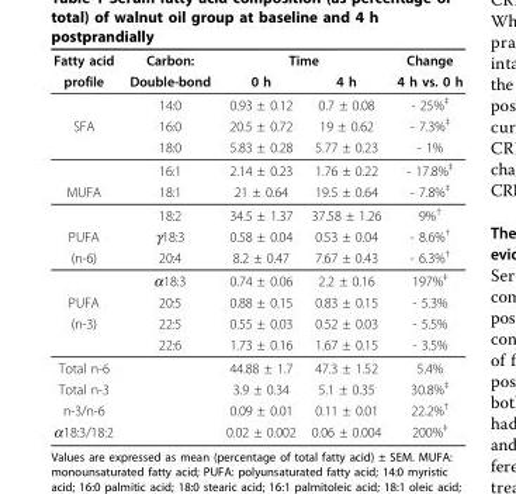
<table><thead><tr><td rowspan="2">Fatty acid profile</td><td rowspan="2">Carbon: Double-bond</td><td colspan="2">Time</td><td rowspan="2">Change 4 h vs. 0 h</td></tr><tr><td>0 h</td><td>4 h</td></tr></thead><tbody><tr><td></td><td>14:0</td><td>0.93 ± 0.12</td><td>0.7 ± 0.08</td><td>- 25%‡</td></tr><tr><td rowspan="3">SFA</td><td>16:0</td><td>20.5 ± 0.72</td><td>19 ± 0.62</td><td>- 7.3%‡</td></tr><tr><td>18:0</td><td>5.83 ± 0.28</td><td>5.77 ± 0.23</td><td>- 1%</td></tr><tr><td>16:1</td><td>2.14 ± 0.23</td><td>1.76 ± 0.22</td><td>- 17.8%<sup>‡</sup></td></tr><tr><td rowspan="2">MUFA</td><td>18:1</td><td>21 ± 0.64</td><td>19.5 ± 0.64</td><td>- 7.8%<sup>‡</sup></td></tr><tr><td>18:2</td><td>34.5 ± 1.37</td><td>37.58 ± 1.26</td><td>9%<sup>†</sup></td></tr><tr><td>PUFA</td><td>γ18:3</td><td>0.58 ± 0.04</td><td>0.53 ± 0.04</td><td>- 8.6%<sup>†</sup></td></tr><tr><td rowspan="2">(n-6)</td><td>20:4</td><td>8.2 ± 0.47</td><td>7.67 ± 0.43</td><td>- 6.3%<sup>†</sup></td></tr><tr><td>α18:3</td><td>0.74 ± 0.06</td><td>2.2 ± 0.16</td><td>197%<sup>‡</sup></td></tr><tr><td>PUFA</td><td>20:5</td><td>0.88 ± 0.15</td><td>0.83 ± 0.15</td><td>- 5.3%</td></tr><tr><td rowspan="2">(n-3)</td><td>22:5</td><td>0.55 ± 0.03</td><td>0.52 ± 0.03</td><td>- 5.5%</td></tr><tr><td>22:6</td><td>1.73 ± 0.16</td><td>1.67 ± 0.15</td><td>- 3.5%</td></tr><tr><td>Total n-6</td><td></td><td>44.88 ± 1.7</td><td>47.3 ± 1.52</td><td>5.4%</td></tr><tr><td>Total n-3</td><td></td><td>3.9 ± 0.34</td><td>5.1 ± 0.35</td><td>30.8%<sup>‡</sup></td></tr><tr><td>n-3/n-6</td><td></td><td>0.09 ± 0.01</td><td>0.11 ± 0.01</td><td>22.2%<sup>†</sup></td></tr><tr><td>α18:3/18:2</td><td></td><td>0.02 ± 0.002</td><td>0.06 ± 0.004</td><td>200%<sup>‡</sup></td></tr></tbody></table>